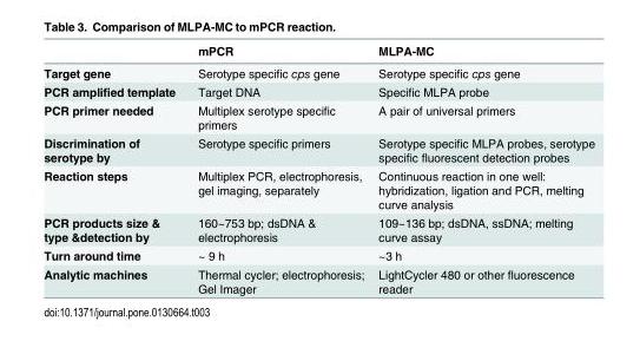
<table><thead><tr><td></td><td>mPCR</td><td>MLPA-MC</td></tr></thead><tbody><tr><td>Target gene</td><td>Serotype specific cps gene</td><td>Serotype specific cps gene</td></tr><tr><td>PCR amplified template</td><td>Target DNA</td><td>Specific MLPA probe</td></tr><tr><td>PCR primer needed</td><td>Multiplex serotype specific primers</td><td>A pair of universal primers</td></tr><tr><td>Discrimination of serotype by</td><td>Serotype specific primers</td><td>Serotype specific MLPA probes, serotype specific fluorescent detection probes</td></tr><tr><td>Reaction steps</td><td>Multiplex PCR, electrophoresis, gel imaging, separately</td><td>Continuous reaction in one well: hybridization, ligation and PCR, melting curve analysis</td></tr><tr><td>PCR products size &amp; type &amp;detection by</td><td>160~753 bp; dsDNA &amp; electrophoresis</td><td>109~136 bp; dsDNA, ssDNA; melting curve assay</td></tr><tr><td>Turn around time</td><td>~ 9 h</td><td>~3 h</td></tr><tr><td>Analytic machines</td><td>Thermal cycler; electrophoresis; Gel Imager</td><td>LightCycler 480 or other fluorescence reader</td></tr></tbody></table>